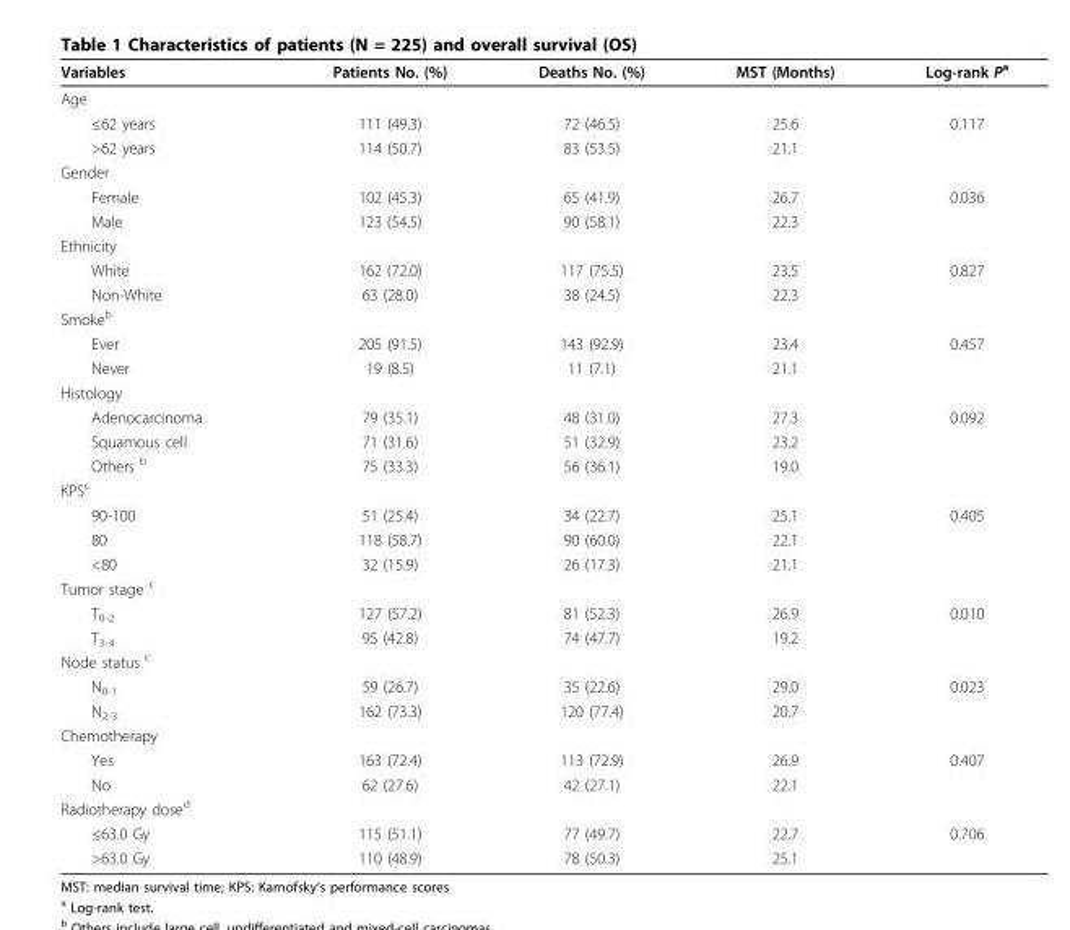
<table><thead><tr><td>Variables</td><td>Patients No. (%)</td><td>Deaths No. (%)</td><td>MST (Months)</td><td>Log-rank P<sup>a</sup></td></tr></thead><tbody><tr><td colspan="5">Age</td></tr><tr><td>≤62 years</td><td>111 (49.3)</td><td>72 (46.5)</td><td>25.6</td><td>0.117</td></tr><tr><td>&gt;62 years</td><td>114 (50.7)</td><td>83 (53.5)</td><td>21.1</td><td></td></tr><tr><td colspan="5">Gender</td></tr><tr><td>Female</td><td>102 (45.3)</td><td>65 (41.9)</td><td>26.7</td><td>0.036</td></tr><tr><td>Male</td><td>123 (54.5)</td><td>90 (58.1)</td><td>22.3</td><td></td></tr><tr><td colspan="5">Ethnicity</td></tr><tr><td>White</td><td>162 (72.0)</td><td>117 (75.5)</td><td>23.5</td><td>0.827</td></tr><tr><td>Non-White</td><td>63 (28.0)</td><td>38 (24.5)</td><td>22.3</td><td></td></tr><tr><td colspan="5">Smoke<sup>b</sup></td></tr><tr><td>Ever</td><td>205 (91.5)</td><td>143 (92.9)</td><td>23.4</td><td>0.457</td></tr><tr><td>Never</td><td>19 (8.5)</td><td>11 (7.1)</td><td>21.1</td><td></td></tr><tr><td colspan="5">Histology</td></tr><tr><td>Adenocarcinoma</td><td>79 (35.1)</td><td>48 (31.0)</td><td>27.3</td><td>0.092</td></tr><tr><td>Squamous cell</td><td>71 (31.6)</td><td>51 (32.9)</td><td>23.2</td><td></td></tr><tr><td>Others <sup>b</sup></td><td>75 (33.3)</td><td>56 (36.1)</td><td>19.0</td><td></td></tr><tr><td colspan="5">KPS<sup>c</sup></td></tr><tr><td>90-100</td><td>51 (25.4)</td><td>34 (22.7)</td><td>25.1</td><td>0.405</td></tr><tr><td>80</td><td>118 (58.7)</td><td>90 (60.0)</td><td>22.1</td><td></td></tr><tr><td>&lt;80</td><td>32 (15.9)</td><td>26 (17.3)</td><td>21.1</td><td></td></tr><tr><td colspan="5">Tumor stage <sup>c</sup></td></tr><tr><td>T<sub>0-2</sub></td><td>127 (57.2)</td><td>81 (52.3)</td><td>26.9</td><td>0.010</td></tr><tr><td>T<sub>3-4</sub></td><td>95 (42.8)</td><td>74 (47.7)</td><td>19.2</td><td></td></tr><tr><td colspan="5">Node status <sup>c</sup></td></tr><tr><td>N<sub>0-1</sub></td><td>59 (26.7)</td><td>35 (22.6)</td><td>29.0</td><td>0.023</td></tr><tr><td>N<sub>2-3</sub></td><td>162 (73.3)</td><td>120 (77.4)</td><td>20.7</td><td></td></tr><tr><td colspan="5">Chemotherapy</td></tr><tr><td>Yes</td><td>163 (72.4)</td><td>113 (72.9)</td><td>26.9</td><td>0.407</td></tr><tr><td>No</td><td>62 (27.6)</td><td>42 (27.1)</td><td>22.1</td><td></td></tr><tr><td colspan="5">Radiotherapy dose<sup>d</sup></td></tr><tr><td>≤63.0 Gy</td><td>115 (51.1)</td><td>77 (49.7)</td><td>22.7</td><td>0.706</td></tr><tr><td>&gt;63.0 Gy</td><td>110 (48.9)</td><td>78 (50.3)</td><td>25.1</td><td></td></tr></tbody></table>